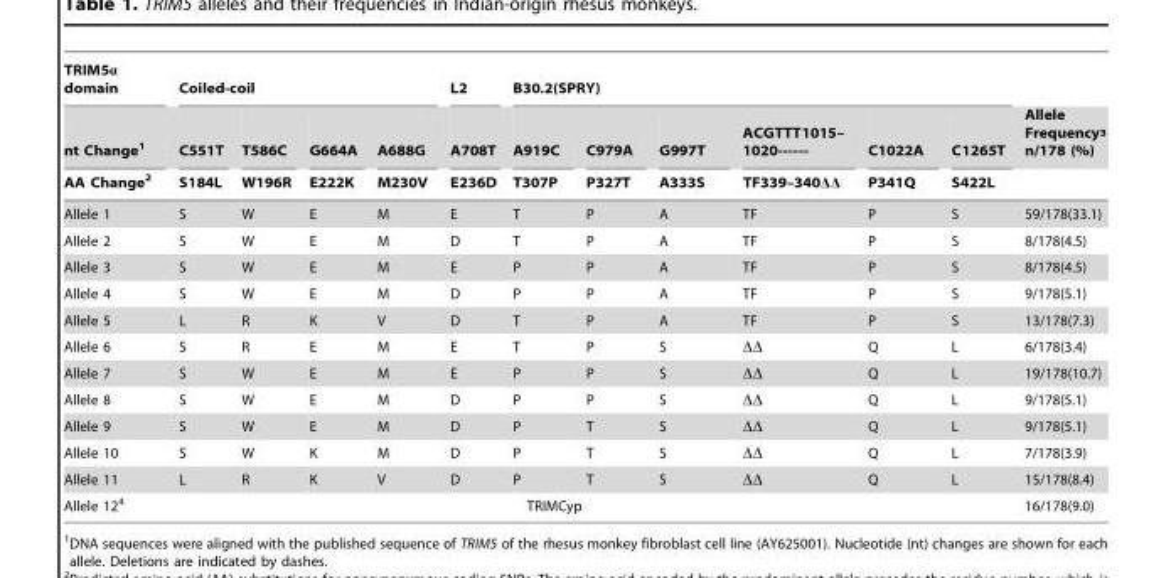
<table><thead><tr><td rowspan="3">TRIM5α domain nt Change<sup>1</sup> AA Change<sup>2</sup></td><td colspan="4">Coiled-coil</td><td rowspan="3">L2 A708T E236D</td><td colspan="6">B30.2(SPRY)</td><td rowspan="3">Allele Frequency<sup>3</sup> n/178 (%)</td></tr><tr><td rowspan="2">C551T S184L</td><td rowspan="2">T586C W196R</td><td rowspan="2">G664A E222K</td><td rowspan="2">A688G M230V</td><td rowspan="2">A919C T307P</td><td rowspan="2">C979A P327T</td><td rowspan="2">G997T A333S</td><td rowspan="2">ACGTTT1015– 1020------ TF339–340ΔΔ</td><td rowspan="2">C1022A P341Q</td><td rowspan="2">C1265T S422L</td></tr><tr></tr></thead><tbody><tr><td>Allele 1</td><td>S</td><td>W</td><td>E</td><td>M</td><td>E</td><td>T</td><td>P</td><td>A</td><td>TF</td><td>P</td><td>S</td><td>59/178(33.1)</td></tr><tr><td>Allele 2</td><td>S</td><td>W</td><td>E</td><td>M</td><td>D</td><td>T</td><td>P</td><td>A</td><td>TF</td><td>P</td><td>S</td><td>8/178(4.5)</td></tr><tr><td>Allele 3</td><td>S</td><td>W</td><td>E</td><td>M</td><td>E</td><td>P</td><td>P</td><td>A</td><td>TF</td><td>P</td><td>S</td><td>8/178(4.5)</td></tr><tr><td>Allele 4</td><td>S</td><td>W</td><td>E</td><td>M</td><td>D</td><td>P</td><td>P</td><td>A</td><td>TF</td><td>P</td><td>S</td><td>9/178(5.1)</td></tr><tr><td>Allele 5</td><td>L</td><td>R</td><td>K</td><td>V</td><td>D</td><td>T</td><td>P</td><td>A</td><td>TF</td><td>P</td><td>S</td><td>13/178(7.3)</td></tr><tr><td>Allele 6</td><td>S</td><td>R</td><td>E</td><td>M</td><td>E</td><td>T</td><td>P</td><td>S</td><td>ΔΔ</td><td>Q</td><td>L</td><td>6/178(3.4)</td></tr><tr><td>Allele 7</td><td>S</td><td>W</td><td>E</td><td>M</td><td>E</td><td>P</td><td>P</td><td>S</td><td>ΔΔ</td><td>Q</td><td>L</td><td>19/178(10.7)</td></tr><tr><td>Allele 8</td><td>S</td><td>W</td><td>E</td><td>M</td><td>D</td><td>P</td><td>P</td><td>S</td><td>ΔΔ</td><td>Q</td><td>L</td><td>9/178(5.1)</td></tr><tr><td>Allele 9</td><td>S</td><td>W</td><td>E</td><td>M</td><td>D</td><td>P</td><td>T</td><td>S</td><td>ΔΔ</td><td>Q</td><td>L</td><td>9/178(5.1)</td></tr><tr><td>Allele 10</td><td>S</td><td>W</td><td>K</td><td>M</td><td>D</td><td>P</td><td>T</td><td>S</td><td>ΔΔ</td><td>Q</td><td>L</td><td>7/178(3.9)</td></tr><tr><td>Allele 11</td><td>L</td><td>R</td><td>K</td><td>V</td><td>D</td><td>P</td><td>T</td><td>S</td><td>ΔΔ</td><td>Q</td><td>L</td><td>15/178(8.4)</td></tr><tr><td>Allele 12<sup>4</sup></td><td colspan="11">TRIMCyp</td><td>16/178(9.0)</td></tr></tbody></table>